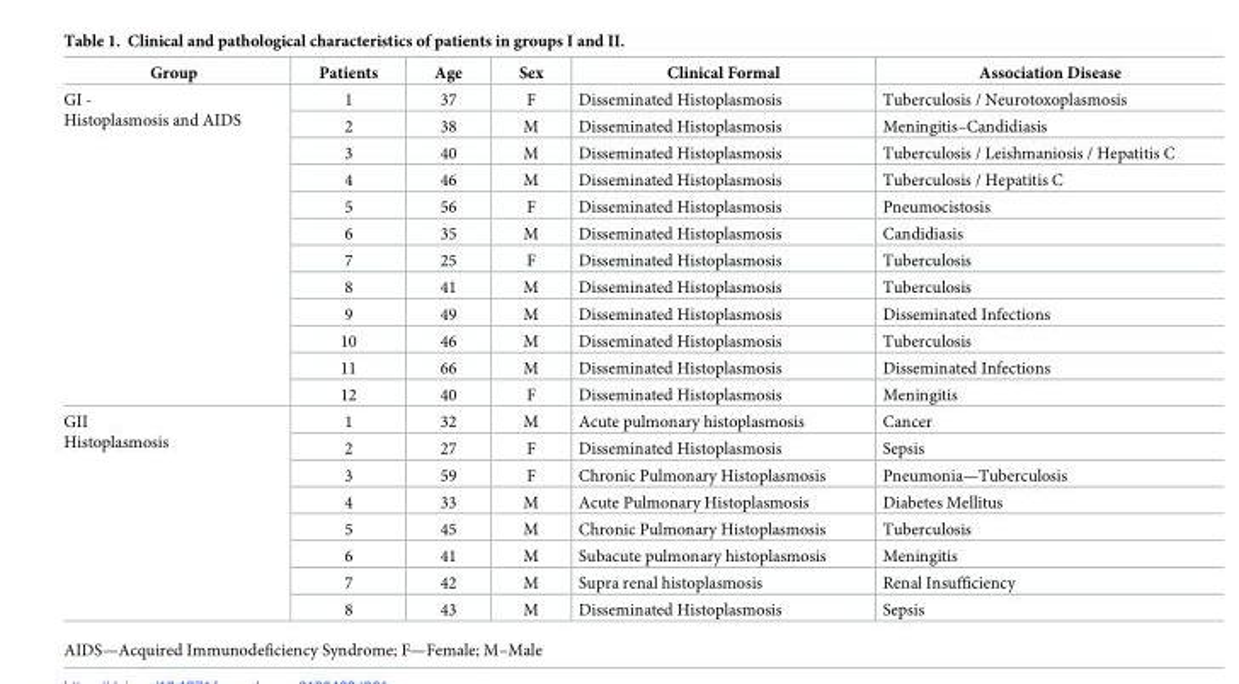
<table><thead><tr><td>Group</td><td>Patients</td><td>Age</td><td>Sex</td><td>Clinical Formal</td><td>Association Disease</td></tr></thead><tbody><tr><td rowspan="12">GI - Histoplasmosis and AIDS</td><td>1</td><td>37</td><td>F</td><td>Disseminated Histoplasmosis</td><td>Tuberculosis / Neurotoxoplasmosis</td></tr><tr><td>2</td><td>38</td><td>M</td><td>Disseminated Histoplasmosis</td><td>Meningitis–Candidiasis</td></tr><tr><td>3</td><td>40</td><td>M</td><td>Disseminated Histoplasmosis</td><td>Tuberculosis / Leishmaniosis / Hepatitis C</td></tr><tr><td>4</td><td>46</td><td>M</td><td>Disseminated Histoplasmosis</td><td>Tuberculosis / Hepatitis C</td></tr><tr><td>5</td><td>56</td><td>F</td><td>Disseminated Histoplasmosis</td><td>Pneumocistosis</td></tr><tr><td>6</td><td>35</td><td>M</td><td>Disseminated Histoplasmosis</td><td>Candidiasis</td></tr><tr><td>7</td><td>25</td><td>F</td><td>Disseminated Histoplasmosis</td><td>Tuberculosis</td></tr><tr><td>8</td><td>41</td><td>M</td><td>Disseminated Histoplasmosis</td><td>Tuberculosis</td></tr><tr><td>9</td><td>49</td><td>M</td><td>Disseminated Histoplasmosis</td><td>Disseminated Infections</td></tr><tr><td>10</td><td>46</td><td>M</td><td>Disseminated Histoplasmosis</td><td>Tuberculosis</td></tr><tr><td>11</td><td>66</td><td>M</td><td>Disseminated Histoplasmosis</td><td>Disseminated Infections</td></tr><tr><td>12</td><td>40</td><td>F</td><td>Disseminated Histoplasmosis</td><td>Meningitis</td></tr><tr><td rowspan="8">GII Histoplasmosis</td><td>1</td><td>32</td><td>M</td><td>Acute pulmonary histoplasmosis</td><td>Cancer</td></tr><tr><td>2</td><td>27</td><td>F</td><td>Disseminated Histoplasmosis</td><td>Sepsis</td></tr><tr><td>3</td><td>59</td><td>F</td><td>Chronic Pulmonary Histoplasmosis</td><td>Pneumonia—Tuberculosis</td></tr><tr><td>4</td><td>33</td><td>M</td><td>Acute Pulmonary Histoplasmosis</td><td>Diabetes Mellitus</td></tr><tr><td>5</td><td>45</td><td>M</td><td>Chronic Pulmonary Histoplasmosis</td><td>Tuberculosis</td></tr><tr><td>6</td><td>41</td><td>M</td><td>Subacute pulmonary histoplasmosis</td><td>Meningitis</td></tr><tr><td>7</td><td>42</td><td>M</td><td>Supra renal histoplasmosis</td><td>Renal Insufficiency</td></tr><tr><td>8</td><td>43</td><td>M</td><td>Disseminated Histoplasmosis</td><td>Sepsis</td></tr></tbody></table>